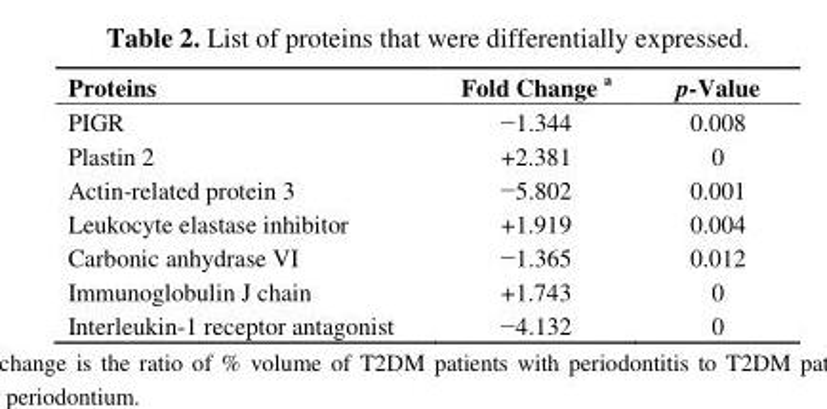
<table><thead><tr><td>Proteins</td><td>Fold Change a</td><td>p-Value</td></tr></thead><tbody><tr><td>PIGR</td><td>−1.344</td><td>0.008</td></tr><tr><td>Plastin 2</td><td>+2.381</td><td>0</td></tr><tr><td>Actin-related protein 3</td><td>−5.802</td><td>0.001</td></tr><tr><td>Leukocyte elastase inhibitor</td><td>+1.919</td><td>0.004</td></tr><tr><td>Carbonic anhydrase VI</td><td>−1.365</td><td>0.012</td></tr><tr><td>Immunoglobulin J chain</td><td>+1.743</td><td>0</td></tr><tr><td>Interleukin-1 receptor antagonist</td><td>−4.132</td><td>0</td></tr></tbody></table>